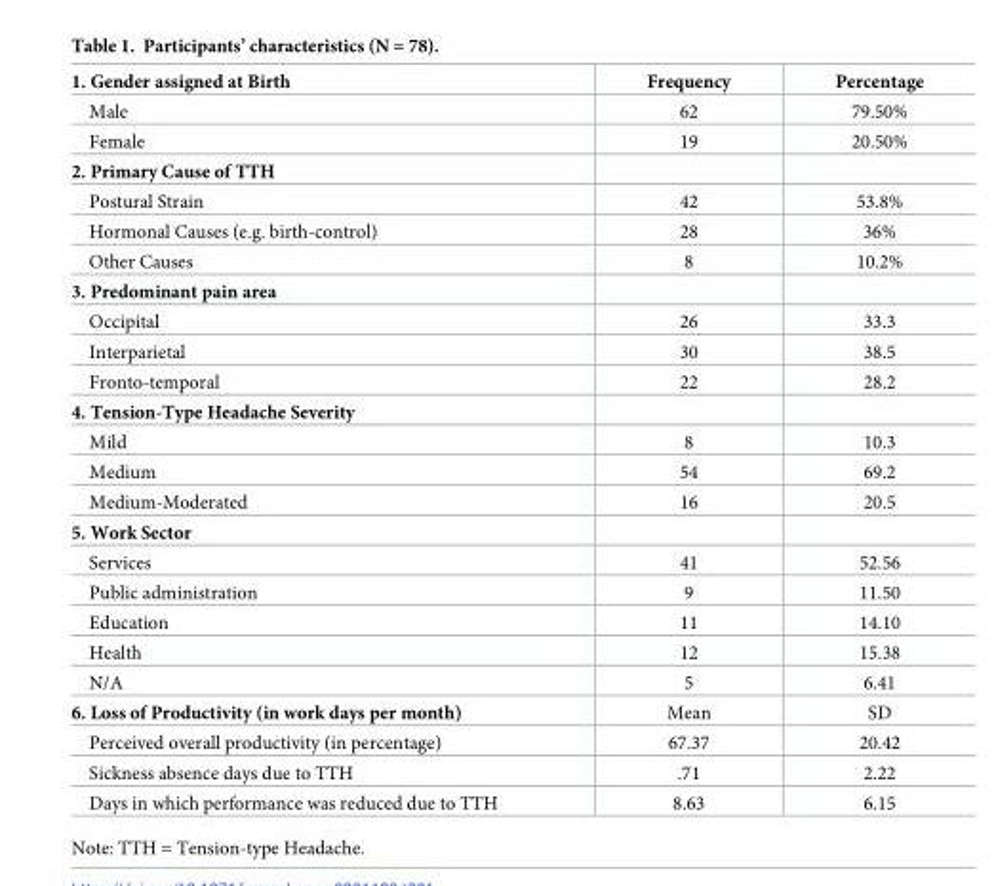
<table><tbody><tr><td>1. Gender assigned at Birth</td><td>Frequency</td><td>Percentage</td></tr><tr><td>Male</td><td>62</td><td>79.50%</td></tr><tr><td>Female</td><td>19</td><td>20.50%</td></tr><tr><td colspan="3">2. Primary Cause of TTH</td></tr><tr><td>Postural Strain</td><td>42</td><td>53.8%</td></tr><tr><td>Hormonal Causes (e.g. birth-control)</td><td>28</td><td>36%</td></tr><tr><td>Other Causes</td><td>8</td><td>10.2%</td></tr><tr><td colspan="3">3. Predominant pain area</td></tr><tr><td>Occipital</td><td>26</td><td>33.3</td></tr><tr><td>Interparietal</td><td>30</td><td>38.5</td></tr><tr><td>Fronto-temporal</td><td>22</td><td>28.2</td></tr><tr><td colspan="3">4. Tension-Type Headache Severity</td></tr><tr><td>Mild</td><td>8</td><td>10.3</td></tr><tr><td>Medium</td><td>54</td><td>69.2</td></tr><tr><td>Medium-Moderated</td><td>16</td><td>20.5</td></tr><tr><td colspan="3">5. Work Sector</td></tr><tr><td>Services</td><td>41</td><td>52.56</td></tr><tr><td>Public administration</td><td>9</td><td>11.50</td></tr><tr><td>Education</td><td>11</td><td>14.10</td></tr><tr><td>Health</td><td>12</td><td>15.38</td></tr><tr><td>N/A</td><td>5</td><td>6.41</td></tr><tr><td>6. Loss of Productivity (in work days per month)</td><td>Mean</td><td>SD</td></tr><tr><td>Perceived overall productivity (in percentage)</td><td>67.37</td><td>20.42</td></tr><tr><td>Sickness absence days due to TTH</td><td>.71</td><td>2.22</td></tr><tr><td>Days in which performance was reduced due to TTH</td><td>8.63</td><td>6.15</td></tr></tbody></table>